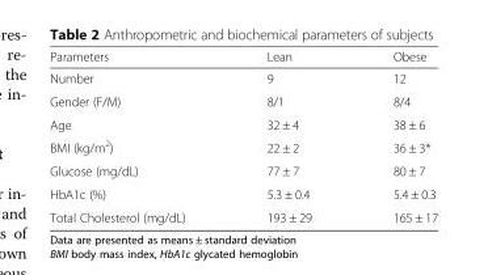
<table><thead><tr><td>Parameters</td><td>Lean</td><td>Obese</td></tr></thead><tbody><tr><td>Number</td><td>9</td><td>12</td></tr><tr><td>Gender (F/M)</td><td>8/1</td><td>8/4</td></tr><tr><td>Age</td><td>32 ± 4</td><td>38 ± 6</td></tr><tr><td>BMI (kg/m<sup>2</sup>)</td><td>22 ± 2</td><td>36 ± 3*</td></tr><tr><td>Glucose (mg/dL)</td><td>77 ± 7</td><td>80 ± 7</td></tr><tr><td>HbA1c (%)</td><td>5.3 ± 0.4</td><td>5.4 ± 0.3</td></tr><tr><td>Total Cholesterol (mg/dL)</td><td>193 ± 29</td><td>165 ± 17</td></tr></tbody></table>